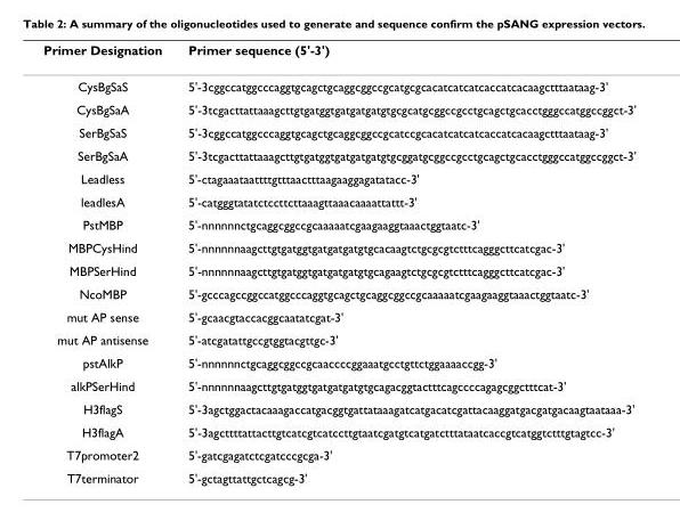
<table><thead><tr><td>Primer Designation</td><td>Primer sequence (5&#x27;-3&#x27;)</td></tr></thead><tbody><tr><td>CysBgSaS</td><td>5&#x27;-3cggccatggcccaggtgcagctgcaggcggccgcatgcgcacatcatcatcaccatcacaagctttaataag-3&#x27;</td></tr><tr><td>CysBgSaA</td><td>5&#x27;-3tcgacttattaaagcttgtgatggtgatgatgatgtgcgcatgcggccgcctgcagctgcacctgggccatggccggct-3&#x27;</td></tr><tr><td>SerBgSaS</td><td>5&#x27;-3cggccatggcccaggtgcagctgcaggcggccgcatccgcacatcatcatcaccatcacaagctttaataag-3&#x27;</td></tr><tr><td>SerBgSaA</td><td>5&#x27;-3tcgacttattaaagcttgtgatggtgatgatgatgtgcggatgcggccgcctgcagctgcacctgggccatggccggct-3&#x27;</td></tr><tr><td>Leadless</td><td>5&#x27;-ctagaaataattttgtttaactttaagaaggagatatacc-3&#x27;</td></tr><tr><td>leadlesA</td><td>5&#x27;-catgggtatatctccttcttaaagttaaacaaaattattt-3&#x27;</td></tr><tr><td>PstMBP</td><td>5&#x27;-nnnnnnctgcaggcggccgcaaaaatcgaagaaggtaaactggtaatc-3&#x27;</td></tr><tr><td>MBPCysHind</td><td>5&#x27;-nnnnnnaagcttgtgatggtgatgatgatgtgcacaagtctgcgcgtctttcagggcttcatcgac-3&#x27;</td></tr><tr><td>MBPSerHind</td><td>5&#x27;-nnnnnnaagcttgtgatggtgatgatgatgtgcagaagtctgcgcgtctttcagggcttcatcgac-3&#x27;</td></tr><tr><td>NcoMBP</td><td>5&#x27;-gcccagccggccatggcccaggtgcagctgcaggcggccgcaaaaatcgaagaaggtaaactggtaatc-3&#x27;</td></tr><tr><td>mut AP sense</td><td>5&#x27;-gcaacgtaccacggcaatatcgat-3&#x27;</td></tr><tr><td>mut AP antisense</td><td>5&#x27;-atcgatattgccgtggtacgttgc-3&#x27;</td></tr><tr><td>pstAlkP</td><td>5&#x27;-nnnnnnctgcaggcggccgcaaccccggaaatgcctgttctggaaaaccgg-3&#x27;</td></tr><tr><td>alkPSerHind</td><td>5&#x27;-nnnnnnaagcttgtgatggtgatgatgatgtgcagacggtactttcagccccagagcggctttcat-3&#x27;</td></tr><tr><td>H3flagS</td><td>5&#x27;-3agctggactacaaagaccatgacggtgattataaagatcatgacatcgattacaaggatgacgatgacaagtaataaa-3&#x27;</td></tr><tr><td>H3flagA</td><td>5&#x27;-3agcttttattacttgtcatcgtcatccttgtaatcgatgtcatgatctttataatcaccgtcatggtctttgtagtcc-3&#x27;</td></tr><tr><td>T7promoter2</td><td>5&#x27;-gatcgagatctcgatcccgcga-3&#x27;</td></tr><tr><td>T7terminator</td><td>5&#x27;-gctagttattgctcagcg-3&#x27;</td></tr></tbody></table>